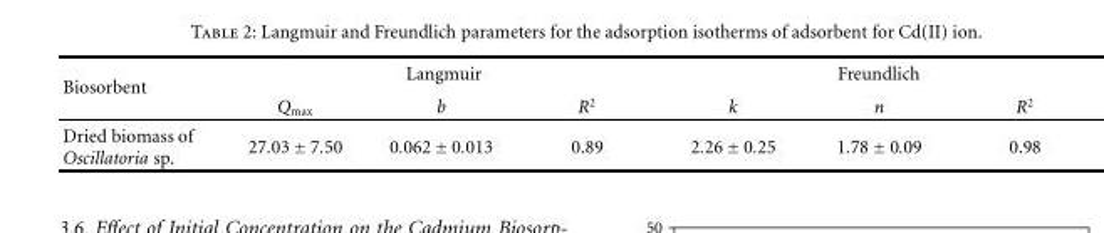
<table><thead><tr><td rowspan="2">Biosorbent</td><td colspan="3">Langmuir</td><td colspan="3">Freundlich</td></tr><tr><td>Q<sub>max</sub></td><td>b</td><td>R<sup>2</sup></td><td>k</td><td>n</td><td>R<sup>2</sup></td></tr></thead><tbody><tr><td>Dried biomass of Oscillatoria sp.</td><td>27.03 ± 7.50</td><td>0.062 ± 0.013</td><td>0.89</td><td>2.26 ± 0.25</td><td>1.78 ± 0.09</td><td>0.98</td></tr></tbody></table>